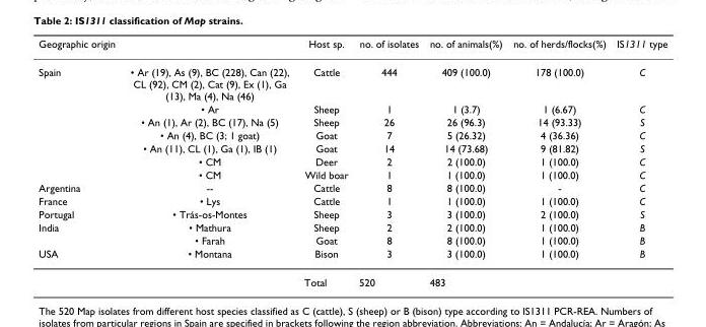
<table><thead><tr><td>Geographic origin</td><td></td><td>Host sp.</td><td>no. of isolates</td><td>no. of animals(%)</td><td>no. of herds/flocks(%)</td><td>IS1311 type</td></tr></thead><tbody><tr><td rowspan="7">Spain</td><td>• Ar (19), As (9), BC (228), Can (22), CL (92), CM (2), Cat (9), Ex (1), Ga (13), Ma (4), Na (46)</td><td>Cattle</td><td>444</td><td>409 (100.0)</td><td>178 (100.0)</td><td>C</td></tr><tr><td>• Ar</td><td>Sheep</td><td>1</td><td>1 (3.7)</td><td>1 (6.67)</td><td>C</td></tr><tr><td>• An (1), Ar (2), BC (17), Na (5)</td><td>Sheep</td><td>26</td><td>26 (96.3)</td><td>14 (93.33)</td><td>S</td></tr><tr><td>• An (4), BC (3; 1 goat)</td><td>Goat</td><td>7</td><td>5 (26.32)</td><td>4 (36.36)</td><td>C</td></tr><tr><td>• An (11), CL (1), Ga (1), IB (1)</td><td>Goat</td><td>14</td><td>14 (73.68)</td><td>9 (81.82)</td><td>S</td></tr><tr><td>• CM</td><td>Deer</td><td>2</td><td>2 (100.0)</td><td>1 (100.0)</td><td>C</td></tr><tr><td>• CM</td><td>Wild boar</td><td>1</td><td>1 (100.0)</td><td>1 (100.0)</td><td>C</td></tr><tr><td>Argentina</td><td>--</td><td>Cattle</td><td>8</td><td>8 (100.0)</td><td>-</td><td>C</td></tr><tr><td>France</td><td>• Lys</td><td>Cattle</td><td>1</td><td>1 (100.0)</td><td>1 (100.0)</td><td>C</td></tr><tr><td>Portugal</td><td>• Trás-os-Montes</td><td>Sheep</td><td>3</td><td>3 (100.0)</td><td>2 (100.0)</td><td>S</td></tr><tr><td rowspan="2">India</td><td>• Mathura</td><td>Sheep</td><td>2</td><td>2 (100.0)</td><td>1 (100.0)</td><td>B</td></tr><tr><td>• Farah</td><td>Goat</td><td>8</td><td>8 (100.0)</td><td>1 (100.0)</td><td>B</td></tr><tr><td rowspan="2">USA</td><td>• Montana</td><td>Bison</td><td>3</td><td>3 (100.0)</td><td>1 (100.0)</td><td>B</td></tr><tr><td></td><td>Total</td><td>520</td><td>483</td><td></td><td></td></tr></tbody></table>